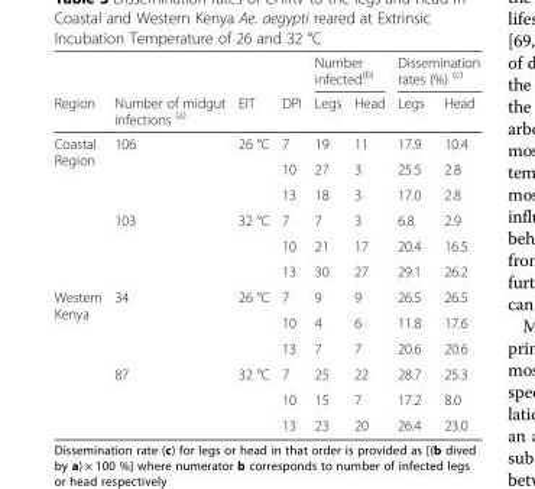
<table><thead><tr><td rowspan="2">Region</td><td rowspan="2">Number of midgut infections <sup>(a)</sup></td><td rowspan="2">EIT</td><td rowspan="2">DPI</td><td colspan="2">Number infected<sup>(b)</sup></td><td colspan="2">Dissemination rates (%) <sup>(c)</sup></td></tr><tr><td>Legs</td><td>Head</td><td>Legs</td><td>Head</td></tr></thead><tbody><tr><td rowspan="6">Coastal Region</td><td rowspan="3">106</td><td>26 °C</td><td>7</td><td>19</td><td>11</td><td>17.9</td><td>10.4</td></tr><tr><td></td><td>10</td><td>27</td><td>3</td><td>25.5</td><td>2.8</td></tr><tr><td></td><td>13</td><td>18</td><td>3</td><td>17.0</td><td>2.8</td></tr><tr><td rowspan="3">103</td><td>32 °C</td><td>7</td><td>7</td><td>3</td><td>6.8</td><td>2.9</td></tr><tr><td></td><td>10</td><td>21</td><td>17</td><td>20.4</td><td>16.5</td></tr><tr><td></td><td>13</td><td>30</td><td>27</td><td>29.1</td><td>26.2</td></tr><tr><td rowspan="6">Western Kenya</td><td rowspan="3">34</td><td>26 °C</td><td>7</td><td>9</td><td>9</td><td>26.5</td><td>26.5</td></tr><tr><td></td><td>10</td><td>4</td><td>6</td><td>11.8</td><td>17.6</td></tr><tr><td></td><td>13</td><td>7</td><td>7</td><td>20.6</td><td>20.6</td></tr><tr><td rowspan="3">87</td><td>32 °C</td><td>7</td><td>25</td><td>22</td><td>28.7</td><td>25.3</td></tr><tr><td></td><td>10</td><td>15</td><td>7</td><td>17.2</td><td>8.0</td></tr><tr><td></td><td>13</td><td>23</td><td>20</td><td>26.4</td><td>23.0</td></tr></tbody></table>